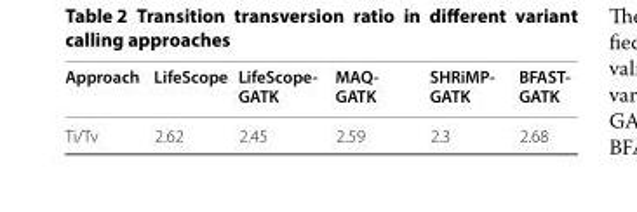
<table><thead><tr><td>Approach</td><td>LifeScope</td><td>LifeScope- GATK</td><td>MAQ- GATK</td><td>SHRiMP- GATK</td><td>BFAST- GATK</td></tr></thead><tbody><tr><td>Ti/Tv</td><td>2.62</td><td>2.45</td><td>2.59</td><td>2.3</td><td>2.68</td></tr></tbody></table>